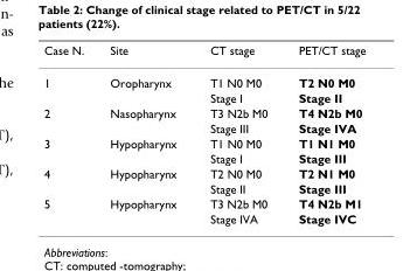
<table><thead><tr><td>Case N.</td><td>Site</td><td>CT stage</td><td>PET/CT stage</td></tr></thead><tbody><tr><td rowspan="2">1</td><td>Oropharynx</td><td>T1 N0 M0</td><td>T2 N0 M0</td></tr><tr><td></td><td>Stage I</td><td>Stage II</td></tr><tr><td rowspan="2">2</td><td>Nasopharynx</td><td>T3 N2b M0</td><td>T4 N2b M0</td></tr><tr><td></td><td>Stage III</td><td>Stage IVA</td></tr><tr><td rowspan="2">3</td><td>Hypopharynx</td><td>T1 N0 M0</td><td>T1 N1 M0</td></tr><tr><td></td><td>Stage I</td><td>Stage III</td></tr><tr><td rowspan="2">4</td><td>Hypopharynx</td><td>T2 N0 M0</td><td>T2 N1 M0</td></tr><tr><td></td><td>Stage II</td><td>Stage III</td></tr><tr><td rowspan="2">5</td><td>Hypopharynx</td><td>T3 N2b M0</td><td>T4 N2b M1</td></tr><tr><td></td><td>Stage IVA</td><td>Stage IVC</td></tr></tbody></table>